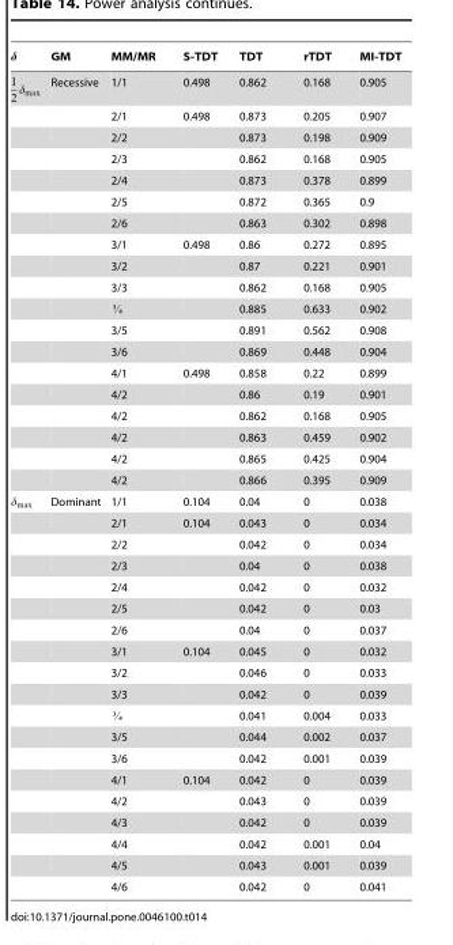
<table><thead><tr><td>GM</td><td>MM/MR</td><td>S-TDT</td><td>TDT</td><td>rTDT</td><td>MI-TDT</td></tr></thead><tbody><tr><td rowspan="19">Recessive</td><td>1/1</td><td>0.498</td><td>0.862</td><td>0.168</td><td>0.905</td></tr><tr><td>2/1</td><td>0.498</td><td>0.873</td><td>0.205</td><td>0.907</td></tr><tr><td>2/2</td><td></td><td>0.873</td><td>0.198</td><td>0.909</td></tr><tr><td>2/3</td><td></td><td>0.862</td><td>0.168</td><td>0.905</td></tr><tr><td>2/4</td><td></td><td>0.873</td><td>0.378</td><td>0.899</td></tr><tr><td>2/5</td><td></td><td>0.872</td><td>0.365</td><td>0.9</td></tr><tr><td>2/6</td><td></td><td>0.863</td><td>0.302</td><td>0.898</td></tr><tr><td>3/1</td><td>0.498</td><td>0.86</td><td>0.272</td><td>0.895</td></tr><tr><td>3/2</td><td></td><td>0.87</td><td>0.221</td><td>0.901</td></tr><tr><td>3/3</td><td></td><td>0.862</td><td>0.168</td><td>0.905</td></tr><tr><td>L</td><td></td><td>0.885</td><td>0.633</td><td>0.902</td></tr><tr><td>3/5</td><td></td><td>0.891</td><td>0.562</td><td>0.908</td></tr><tr><td>3/6</td><td></td><td>0.869</td><td>0.448</td><td>0.904</td></tr><tr><td>4/1</td><td>0.498</td><td>0.858</td><td>0.22</td><td>0.899</td></tr><tr><td>4/2</td><td></td><td>0.86</td><td>0.19</td><td>0.901</td></tr><tr><td>4/2</td><td></td><td>0.862</td><td>0.168</td><td>0.905</td></tr><tr><td>4/2</td><td></td><td>0.863</td><td>0.459</td><td>0.902</td></tr><tr><td>4/2</td><td></td><td>0.865</td><td>0.425</td><td>0.904</td></tr><tr><td>4/2</td><td></td><td>0.866</td><td>0.395</td><td>0.909</td></tr><tr><td rowspan="19">Dominant</td><td>1/1</td><td>0.104</td><td>0.04</td><td>0</td><td>0.038</td></tr><tr><td>2/1</td><td>0.104</td><td>0.043</td><td>0</td><td>0.034</td></tr><tr><td>2/2</td><td></td><td>0.042</td><td>0</td><td>0.034</td></tr><tr><td>2/3</td><td></td><td>0.04</td><td>0</td><td>0.038</td></tr><tr><td>2/4</td><td></td><td>0.042</td><td>0</td><td>0.032</td></tr><tr><td>2/5</td><td></td><td>0.042</td><td>0</td><td>0.03</td></tr><tr><td>2/6</td><td></td><td>0.04</td><td>0</td><td>0.037</td></tr><tr><td>3/1</td><td>0.104</td><td>0.045</td><td>0</td><td>0.032</td></tr><tr><td>3/2</td><td></td><td>0.046</td><td>0</td><td>0.033</td></tr><tr><td>3/3</td><td></td><td>0.042</td><td>0</td><td>0.039</td></tr><tr><td>L</td><td></td><td>0.041</td><td>0.004</td><td>0.033</td></tr><tr><td>3/5</td><td></td><td>0.044</td><td>0.002</td><td>0.037</td></tr><tr><td>3/6</td><td></td><td>0.042</td><td>0.001</td><td>0.039</td></tr><tr><td>4/1</td><td>0.104</td><td>0.042</td><td>0</td><td>0.039</td></tr><tr><td>4/2</td><td></td><td>0.043</td><td>0</td><td>0.039</td></tr><tr><td>4/3</td><td></td><td>0.042</td><td>0</td><td>0.039</td></tr><tr><td>4/4</td><td></td><td>0.042</td><td>0.001</td><td>0.04</td></tr><tr><td>4/5</td><td></td><td>0.043</td><td>0.001</td><td>0.039</td></tr><tr><td>4/6</td><td></td><td>0.042</td><td>0</td><td>0.041</td></tr></tbody></table>